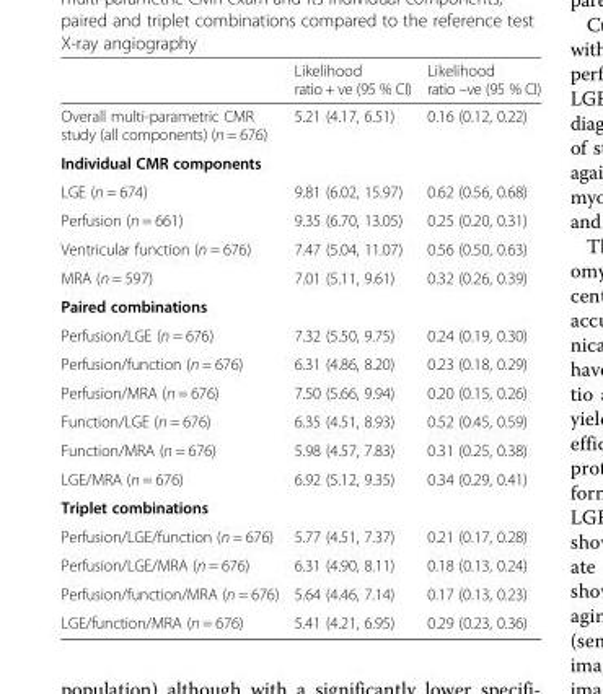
<table><thead><tr><td></td><td>Likelihood ratio + ve (95 % CI)</td><td>Likelihood ratio –ve (95 % CI)</td></tr></thead><tbody><tr><td>Overall multi-parametric CMR study (all components) (n = 676)</td><td>5.21 (4.17, 6.51)</td><td>0.16 (0.12, 0.22)</td></tr><tr><td colspan="3">Individual CMR components</td></tr><tr><td>LGE (n = 674)</td><td>9.81 (6.02, 15.97)</td><td>0.62 (0.56, 0.68)</td></tr><tr><td>Perfusion (n = 661)</td><td>9.35 (6.70, 13.05)</td><td>0.25 (0.20, 0.31)</td></tr><tr><td>Ventricular function (n = 676)</td><td>7.47 (5.04, 11.07)</td><td>0.56 (0.50, 0.63)</td></tr><tr><td>MRA (n = 597)</td><td>7.01 (5.11, 9.61)</td><td>0.32 (0.26, 0.39)</td></tr><tr><td colspan="3">Paired combinations</td></tr><tr><td>Perfusion/LGE (n = 676)</td><td>7.32 (5.50, 9.75)</td><td>0.24 (0.19, 0.30)</td></tr><tr><td>Perfusion/function (n = 676)</td><td>6.31 (4.86, 8.20)</td><td>0.23 (0.18, 0.29)</td></tr><tr><td>Perfusion/MRA (n = 676)</td><td>7.50 (5.66, 9.94)</td><td>0.20 (0.15, 0.26)</td></tr><tr><td>Function/LGE (n = 676)</td><td>6.35 (4.51, 8.93)</td><td>0.52 (0.45, 0.59)</td></tr><tr><td>Function/MRA (n = 676)</td><td>5.98 (4.57, 7.83)</td><td>0.31 (0.25, 0.38)</td></tr><tr><td>LGE/MRA (n = 676)</td><td>6.92 (5.12, 9.35)</td><td>0.34 (0.29, 0.41)</td></tr><tr><td colspan="3">Triplet combinations</td></tr><tr><td>Perfusion/LGE/function (n = 676)</td><td>5.77 (4.51, 7.37)</td><td>0.21 (0.17, 0.28)</td></tr><tr><td>Perfusion/LGE/MRA (n = 676)</td><td>6.31 (4.90, 8.11)</td><td>0.18 (0.13, 0.24)</td></tr><tr><td>Perfusion/function/MRA (n = 676)</td><td>5.64 (4.46, 7.14)</td><td>0.17 (0.13, 0.23)</td></tr><tr><td>LGE/function/MRA (n = 676)</td><td>5.41 (4.21, 6.95)</td><td>0.29 (0.23, 0.36)</td></tr></tbody></table>